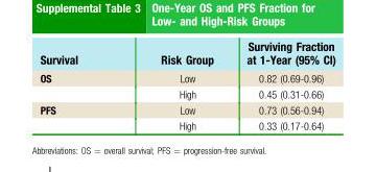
<table><thead><tr><td>Survival</td><td>Risk Group</td><td>Surviving Fraction at 1-Year (95% CI)</td></tr></thead><tbody><tr><td rowspan="2">OS</td><td>Low</td><td>0.82 (0.69-0.96)</td></tr><tr><td>High</td><td>0.45 (0.31-0.66)</td></tr><tr><td rowspan="2">PFS</td><td>Low</td><td>0.73 (0.56-0.94)</td></tr><tr><td>High</td><td>0.33 (0.17-0.64)</td></tr></tbody></table>